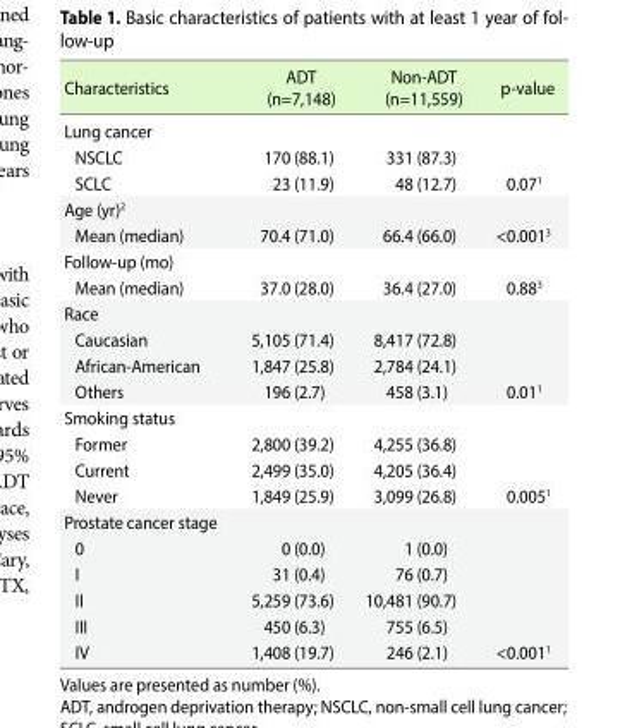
<table><thead><tr><td>Characteristics</td><td>ADT (n=7,148)</td><td>Non-ADT (n=11,559)</td><td>p-value</td></tr></thead><tbody><tr><td colspan="4">Lung cancer</td></tr><tr><td>NSCLC</td><td>170 (88.1)</td><td>331 (87.3)</td><td></td></tr><tr><td>SCLC</td><td>23 (11.9)</td><td>48 (12.7)</td><td>0.07<sup>1</sup></td></tr><tr><td colspan="4">Age (yr)<sup>2</sup></td></tr><tr><td>Mean (median)</td><td>70.4 (71.0)</td><td>66.4 (66.0)</td><td>&lt;0.001<sup>3</sup></td></tr><tr><td colspan="4">Follow-up (mo)</td></tr><tr><td>Mean (median)</td><td>37.0 (28.0)</td><td>36.4 (27.0)</td><td>0.88<sup>3</sup></td></tr><tr><td colspan="4">Race</td></tr><tr><td>Caucasian</td><td>5,105 (71.4)</td><td>8,417 (72.8)</td><td></td></tr><tr><td>African-American</td><td>1,847 (25.8)</td><td>2,784 (24.1)</td><td></td></tr><tr><td>Others</td><td>196 (2.7)</td><td>458 (3.1)</td><td>0.01<sup>1</sup></td></tr><tr><td colspan="4">Smoking status</td></tr><tr><td>Former</td><td>2,800 (39.2)</td><td>4,255 (36.8)</td><td></td></tr><tr><td>Current</td><td>2,499 (35.0)</td><td>4,205 (36.4)</td><td></td></tr><tr><td>Never</td><td>1,849 (25.9)</td><td>3,099 (26.8)</td><td>0.005<sup>1</sup></td></tr><tr><td colspan="4">Prostate cancer stage</td></tr><tr><td>0</td><td>0 (0.0)</td><td>1 (0.0)</td><td></td></tr><tr><td>I</td><td>31 (0.4)</td><td>76 (0.7)</td><td></td></tr><tr><td>II</td><td>5,259 (73.6)</td><td>10,481 (90.7)</td><td></td></tr><tr><td>III</td><td>450 (6.3)</td><td>755 (6.5)</td><td></td></tr><tr><td>IV</td><td>1,408 (19.7)</td><td>246 (2.1)</td><td>&lt;0.001<sup>1</sup></td></tr></tbody></table>